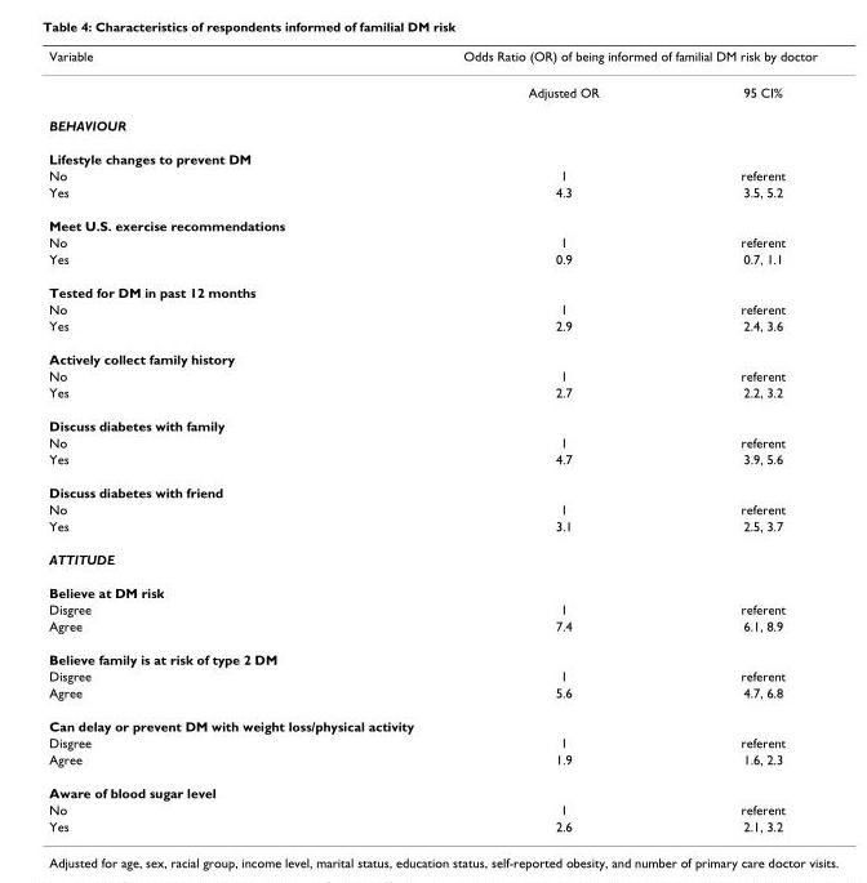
<table><thead><tr><td rowspan="2">Variable</td><td colspan="2">Odds Ratio (OR) of being informed of familial DM risk by doctor</td></tr><tr><td>Adjusted OR</td><td>95 CI%</td></tr></thead><tbody><tr><td colspan="3">BEHAVIOUR</td></tr><tr><td colspan="3">Lifestyle changes to prevent DM</td></tr><tr><td>No</td><td>1</td><td>referent</td></tr><tr><td>Yes</td><td>4.3</td><td>3.5, 5.2</td></tr><tr><td colspan="3">Meet U.S. exercise recommendations</td></tr><tr><td>No</td><td>1</td><td>referent</td></tr><tr><td>Yes</td><td>0.9</td><td>0.7, 1.1</td></tr><tr><td colspan="3">Tested for DM in past 12 months</td></tr><tr><td>No</td><td>1</td><td>referent</td></tr><tr><td>Yes</td><td>2.9</td><td>2.4, 3.6</td></tr><tr><td colspan="3">Actively collect family history</td></tr><tr><td>No</td><td>1</td><td>referent</td></tr><tr><td>Yes</td><td>2.7</td><td>2.2, 3.2</td></tr><tr><td colspan="3">Discuss diabetes with family</td></tr><tr><td>No</td><td>1</td><td>referent</td></tr><tr><td>Yes</td><td>4.7</td><td>3.9, 5.6</td></tr><tr><td colspan="3">Discuss diabetes with friend</td></tr><tr><td>No</td><td>1</td><td>referent</td></tr><tr><td>Yes</td><td>3.1</td><td>2.5, 3.7</td></tr><tr><td colspan="3">ATTITUDE</td></tr><tr><td colspan="3">Believe at DM risk</td></tr><tr><td>Disgree</td><td>1</td><td>referent</td></tr><tr><td>Agree</td><td>7.4</td><td>6.1, 8.9</td></tr><tr><td colspan="3">Believe family is at risk of type 2 DM</td></tr><tr><td>Disgree</td><td>1</td><td>referent</td></tr><tr><td>Agree</td><td>5.6</td><td>4.7, 6.8</td></tr><tr><td colspan="3">Can delay or prevent DM with weight loss/physical activity</td></tr><tr><td>Disgree</td><td>1</td><td>referent</td></tr><tr><td>Agree</td><td>1.9</td><td>1.6, 2.3</td></tr><tr><td colspan="3">Aware of blood sugar level</td></tr><tr><td>No</td><td>1</td><td>referent</td></tr><tr><td>Yes</td><td>2.6</td><td>2.1, 3.2</td></tr></tbody></table>